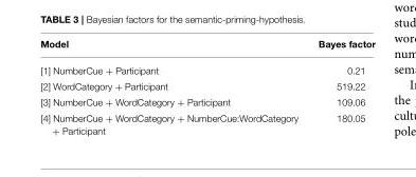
<table><thead><tr><td>Model</td><td>Bayes factor</td></tr></thead><tbody><tr><td>[1] NumberCue + Participant</td><td>0.21</td></tr><tr><td>[2] WordCategory + Participant</td><td>519.22</td></tr><tr><td>[3] NumberCue + WordCategory + Participant</td><td>109.06</td></tr><tr><td>[4] NumberCue + WordCategory + NumberCue:WordCategory + Participant</td><td>180.05</td></tr></tbody></table>